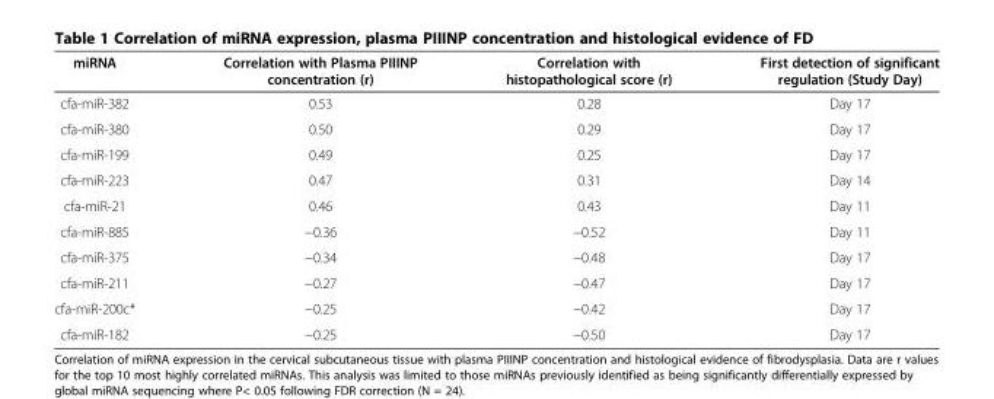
<table><thead><tr><td>miRNA</td><td>Correlation with Plasma PIIINP concentration (r)</td><td>Correlation with histopathological score (r)</td><td>First detection of significant regulation (Study Day)</td></tr></thead><tbody><tr><td>cfa-miR-382</td><td>0.53</td><td>0.28</td><td>Day 17</td></tr><tr><td>cfa-miR-380</td><td>0.50</td><td>0.29</td><td>Day 17</td></tr><tr><td>cfa-miR-199</td><td>0.49</td><td>0.25</td><td>Day 17</td></tr><tr><td>cfa-miR-223</td><td>0.47</td><td>0.31</td><td>Day 14</td></tr><tr><td>cfa-miR-21</td><td>0.46</td><td>0.43</td><td>Day 11</td></tr><tr><td>cfa-miR-885</td><td>−0.36</td><td>−0.52</td><td>Day 11</td></tr><tr><td>cfa-miR-375</td><td>−0.34</td><td>−0.48</td><td>Day 17</td></tr><tr><td>cfa-miR-211</td><td>−0.27</td><td>−0.47</td><td>Day 17</td></tr><tr><td>cfa-miR-200c*</td><td>−0.25</td><td>−0.42</td><td>Day 17</td></tr><tr><td>cfa-miR-182</td><td>−0.25</td><td>−0.50</td><td>Day 17</td></tr></tbody></table>